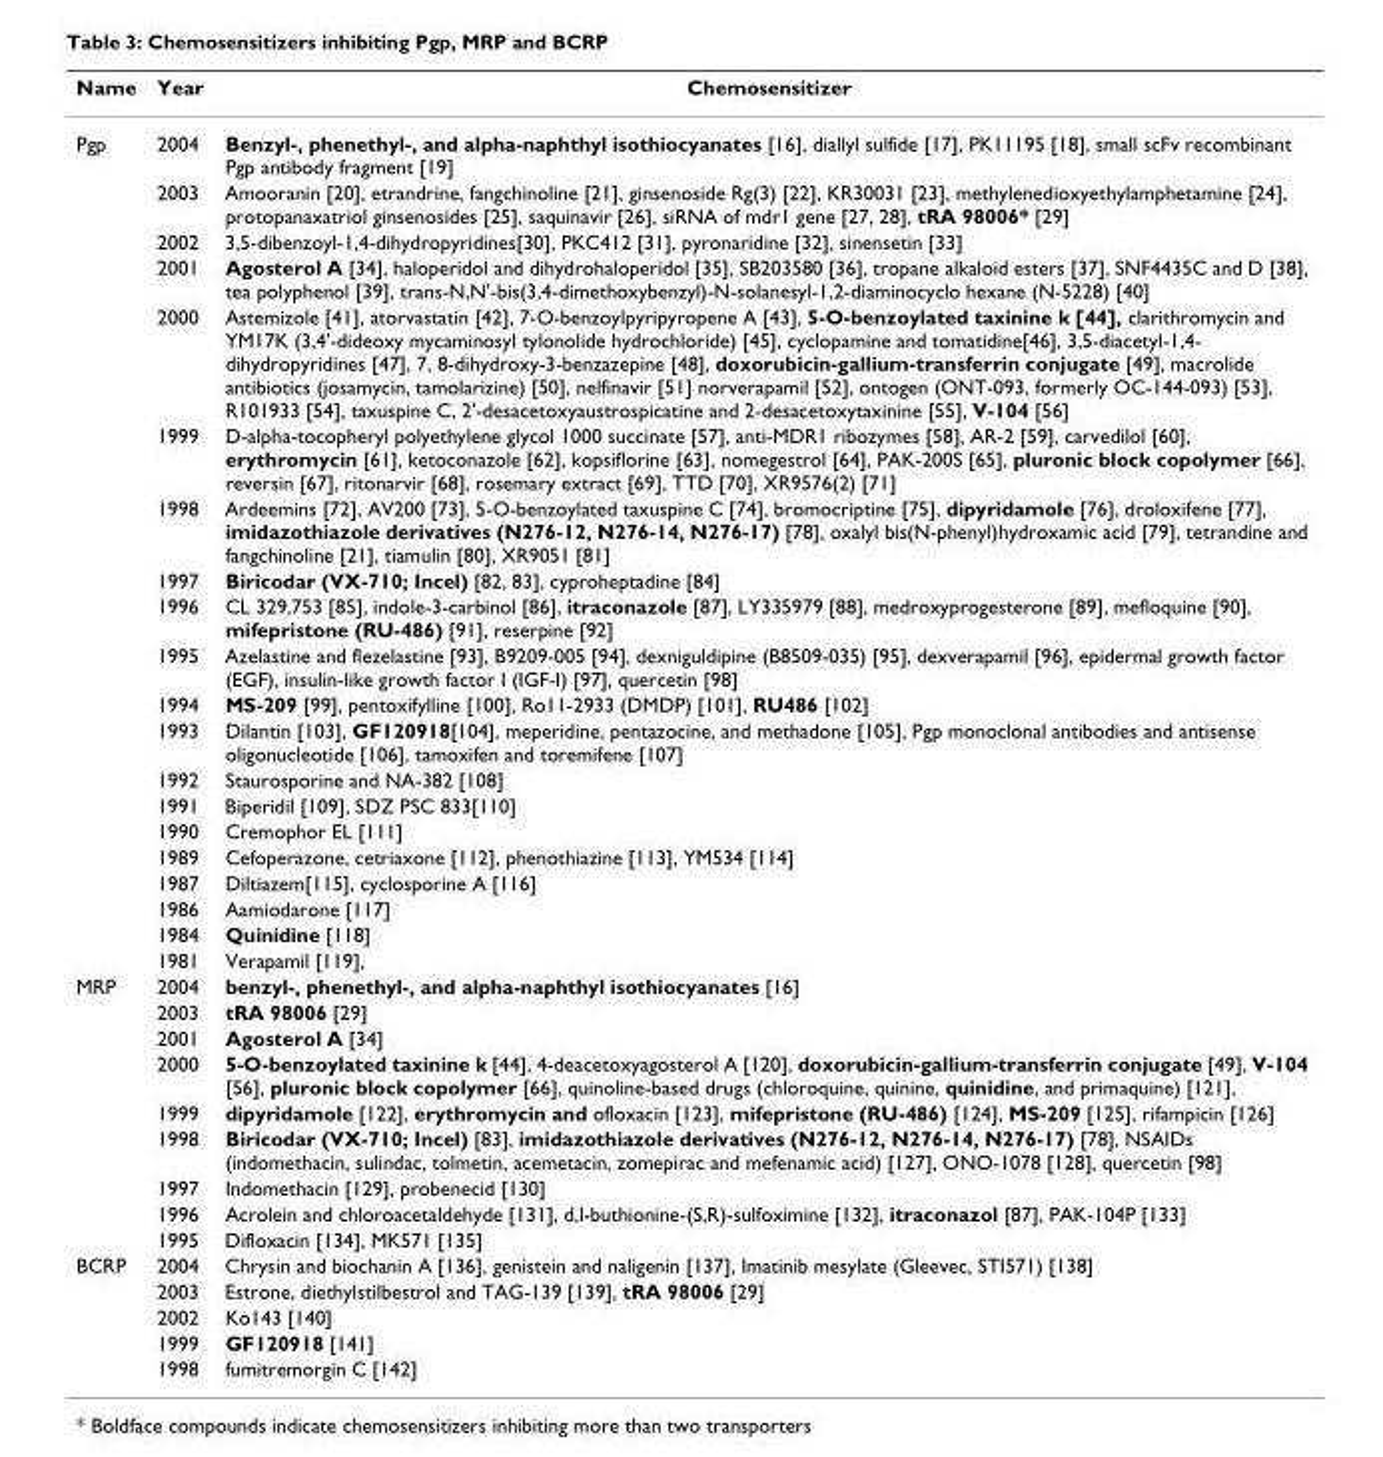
<table><thead><tr><td>Name</td><td>Year</td><td>Chemosensitizer</td></tr></thead><tbody><tr><td rowspan="20">Pgp</td><td>2004</td><td>Benzyl-, phenethyl-, and alpha-naphthyl isothiocyanates [16], diallyl sulfide [17], PK11195 [18], small scFv recombinant Pgp antibody fragment [19]</td></tr><tr><td>2003</td><td>Amooranin [20], etrandrine, fangchinoline [21], ginsenoside Rg(3) [22], KR30031 [23], methylenedioxyethylamphetamine [24], protopanaxatriol ginsenosides [25], saquinavir [26], siRNA of mdr1 gene [27, 28], tRA 98006* [29]</td></tr><tr><td>2002</td><td>3,5-dibenzoyl-1,4-dihydropyridines[30], PKC412 [31], pyronaridine [32], sinensetin [33]</td></tr><tr><td>2001</td><td>Agosterol A [34], haloperidol and dihydrohaloperidol [35], SB203580 [36], tropane alkaloid esters [37], SNF4435C and D [38], tea polyphenol [39], trans-N,N&#x27;-bis(3,4-dimethoxybenzyl)-N-solanesyl-1,2-diaminocyclo hexane (N-5228) [40]</td></tr><tr><td>2000</td><td>Astemizole [41], atorvastatin [42], 7-O-benzoylpyripyropene A [43], 5-O-benzoylated taxinine k [44], clarithromycin and YM17K (3,4&#x27;-dideoxy mycaminosyl tylonolide hydrochloride) [45], cyclopamine and tomatidine[46], 3,5-diacetyl-1,4- dihydropyridines [47], 7, 8-dihydroxy-3-benzazepine [48], doxorubicin-gallium-transferrin conjugate [49], macrolide antibiotics (josamycin, tamolarizine) [50], nelfinavir [51] norverapamil [52], ontogen (ONT-093, formerly OC-144-093) [53], R101933 [54], taxuspine C, 2&#x27;-desacetoxyaustrospicatine and 2-desacetoxytaxinine [55], V-104 [56]</td></tr><tr><td>1999</td><td>D-alpha-tocopheryl polyethylene glycol 1000 succinate [57], anti-MDR1 ribozymes [58], AR-2 [59], carvedilol [60], erythromycin [61], ketoconazole [62], kopsiflorine [63], nomegestrol [64], PAK-200S [65], pluronic block copolymer [66], reversin [67], ritonarvir [68], rosemary extract [69], TTD [70], XR9576(2) [71]</td></tr><tr><td>1998</td><td>Ardeemins [72], AV200 [73], 5-O-benzoylated taxuspine C [74], bromocriptine [75], dipyridamole [76], droloxifene [77], imidazothiazole derivatives (N276-12, N276-14, N276-17) [78], oxalyl bis(N-phenyl)hydroxamic acid [79], tetrandine and fangchinoline [21], tiamulin [80], XR9051 [81]</td></tr><tr><td>1997</td><td>Biricodar (VX-710; Incel) [82, 83], cyproheptadine [84]</td></tr><tr><td>1996</td><td>CL 329,753 [85], indole-3-carbinol [86], itraconazole [87], LY335979 [88], medroxyprogesterone [89], mefloquine [90], mifepristone (RU-486) [91], reserpine [92]</td></tr><tr><td>1995</td><td>Azelastine and flezelastine [93], B9209-005 [94], dexniguldipine (B8509-035) [95], dexverapamil [96], epidermal growth factor (EGF), insulin-like growth factor I (IGF-I) [97], quercetin [98]</td></tr><tr><td>1994</td><td>MS-209 [99], pentoxifylline [100], Ro11-2933 (DMDP) [101], RU486 [102]</td></tr><tr><td>1993</td><td>Dilantin [103], GF120918[104], meperidine, pentazocine, and methadone [105], Pgp monoclonal antibodies and antisense oligonucleotide [106], tamoxifen and toremifene [107]</td></tr><tr><td>1992</td><td>Staurosporine and NA-382 [108]</td></tr><tr><td>1991</td><td>Biperidil [109], SDZ PSC 833[110]</td></tr><tr><td>1990</td><td>Cremophor EL [111]</td></tr><tr><td>1989</td><td>Cefoperazone, cetriaxone [112], phenothiazine [113], YM534 [114]</td></tr><tr><td>1987</td><td>Diltiazem[115], cyclosporine A [116]</td></tr><tr><td>1986</td><td>Aamiodarone [117]</td></tr><tr><td>1984</td><td>Quinidine [118]</td></tr><tr><td>1981</td><td>Verapamil [119],</td></tr><tr><td rowspan="9">MRP</td><td>2004</td><td>benzyl-, phenethyl-, and alpha-naphthyl isothiocyanates [16]</td></tr><tr><td>2003</td><td>tRA 98006 [29]</td></tr><tr><td>2001</td><td>Agosterol A [34]</td></tr><tr><td>2000</td><td>5-O-benzoylated taxinine k [44], 4-deacetoxyagosterol A [120], doxorubicin-gallium-transferrin conjugate [49], V-104 [56], pluronic block copolymer [66], quinoline-based drugs (chloroquine, quinine, quinidine, and primaquine) [121],</td></tr><tr><td>1999</td><td>dipyridamole [122], erythromycin and ofloxacin [123], mifepristone (RU-486) [124], MS-209 [125], rifampicin [126]</td></tr><tr><td>1998</td><td>Biricodar (VX-710; Incel) [83], imidazothiazole derivatives (N276-12, N276-14, N276-17) [78], NSAIDs (indomethacin, sulindac, tolmetin, acemetacin, zomepirac and mefenamic acid) [127], ONO-1078 [128], quercetin [98]</td></tr><tr><td>1997</td><td>Indomethacin [129], probenecid [130]</td></tr><tr><td>1996</td><td>Acrolein and chloroacetaldehyde [131], d,l-buthionine-(S,R)-sulfoximine [132], itraconazol [87], PAK-104P [133]</td></tr><tr><td>1995</td><td>Difloxacin [134], MK571 [135]</td></tr><tr><td rowspan="5">BCRP</td><td>2004</td><td>Chrysin and biochanin A [136], genistein and naligenin [137], Imatinib mesylate (Gleevec, STI571) [138]</td></tr><tr><td>2003</td><td>Estrone, diethylstilbestrol and TAG-139 [139], tRA 98006 [29]</td></tr><tr><td>2002</td><td>Ko143 [140]</td></tr><tr><td>1999</td><td>GF120918 [141]</td></tr><tr><td>1998</td><td>fumitremorgin C [142]</td></tr></tbody></table>